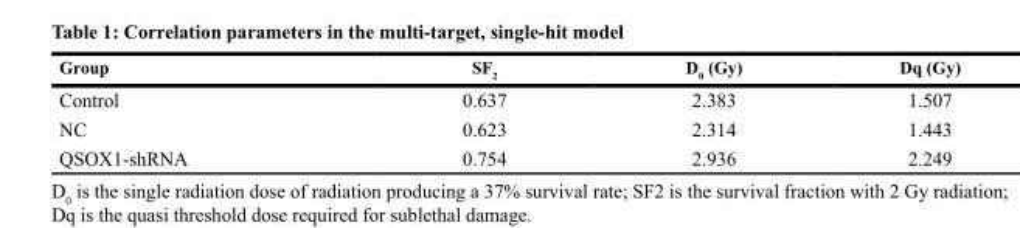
<table><thead><tr><td>Group</td><td>SF<sub>2</sub></td><td>D<sub>0</sub> (Gy)</td><td>Dq (Gy)</td></tr></thead><tbody><tr><td>Control</td><td>0.637</td><td>2.383</td><td>1.507</td></tr><tr><td>NC</td><td>0.623</td><td>2.314</td><td>1.443</td></tr><tr><td>QSOX1-shRNA</td><td>0.754</td><td>2.936</td><td>2.249</td></tr></tbody></table>